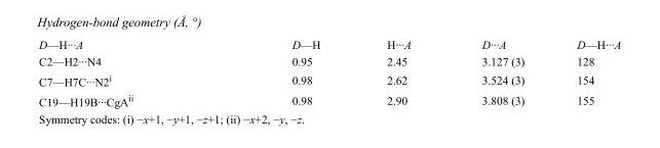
<table><tbody><tr><td>D—H···A</td><td>D—H</td><td>H···A</td><td>D···A</td><td>D—H···A</td></tr><tr><td>C2—H2···N4</td><td>0.95</td><td>2.45</td><td>3.127 (3)</td><td>128</td></tr><tr><td>C7—H7C···N2<sup>i</sup></td><td>0.98</td><td>2.62</td><td>3.524 (3)</td><td>154</td></tr><tr><td>C19—H19B···CgA<sup>ii</sup></td><td>0.98</td><td>2.90</td><td>3.808 (3)</td><td>155</td></tr></tbody></table>